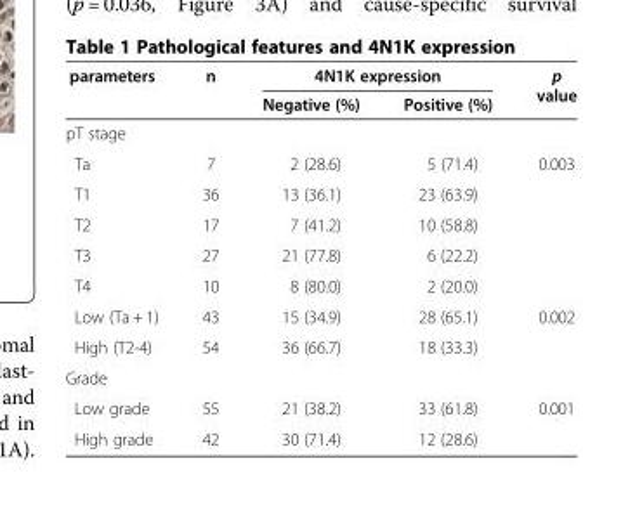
<table><thead><tr><td rowspan="2">parameters</td><td rowspan="2">n</td><td colspan="2">4N1K expression</td><td rowspan="2">p value</td></tr><tr><td>Negative (%)</td><td>Positive (%)</td></tr></thead><tbody><tr><td colspan="5">pT stage</td></tr><tr><td>Ta</td><td>7</td><td>2 (28.6)</td><td>5 (71.4)</td><td>0.003</td></tr><tr><td>T1</td><td>36</td><td>13 (36.1)</td><td>23 (63.9)</td><td></td></tr><tr><td>T2</td><td>17</td><td>7 (41.2)</td><td>10 (58.8)</td><td></td></tr><tr><td>T3</td><td>27</td><td>21 (77.8)</td><td>6 (22.2)</td><td></td></tr><tr><td>T4</td><td>10</td><td>8 (80.0)</td><td>2 (20.0)</td><td></td></tr><tr><td>Low (Ta + 1)</td><td>43</td><td>15 (34.9)</td><td>28 (65.1)</td><td>0.002</td></tr><tr><td>High (T2-4)</td><td>54</td><td>36 (66.7)</td><td>18 (33.3)</td><td></td></tr><tr><td colspan="5">Grade</td></tr><tr><td>Low grade</td><td>55</td><td>21 (38.2)</td><td>33 (61.8)</td><td>0.001</td></tr><tr><td>High grade</td><td>42</td><td>30 (71.4)</td><td>12 (28.6)</td><td></td></tr></tbody></table>